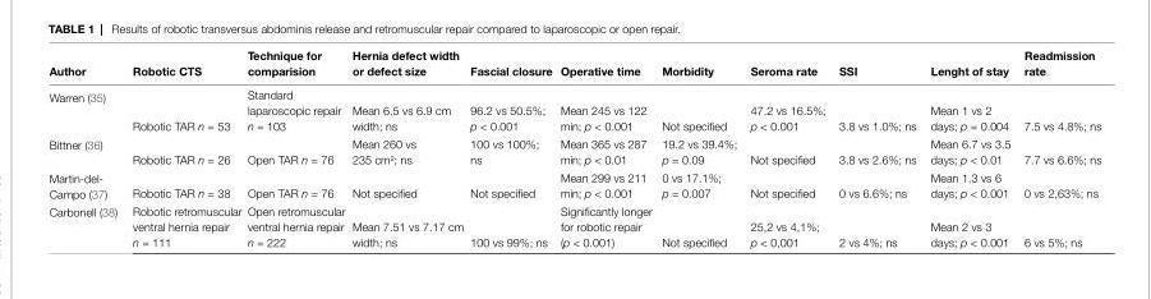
<table><thead><tr><td>Author</td><td>Robotic CTS</td><td>Technique for comparision</td><td>Hernia defect width or defect size</td><td>fascial closure</td><td>operative time</td><td>morbidity</td><td>Seroma rate</td><td>SSi</td><td>Lenght of stay</td><td>Readmission rate</td></tr></thead><tbody><tr><td>Warren (35)</td><td>Robotic TAR n = 53</td><td>Standard laparoscopic repair n = 103</td><td>Mean 6.5 vs 6.9 cm width; ns</td><td>96.2 vs 50.5%; p &lt; 0.001</td><td>Mean 245 vs 122 min; p &lt; 0.001</td><td>Not specified</td><td>47.2 vs 16.5%; p &lt; 0.001</td><td>3.8 vs 1.0%; ns</td><td>Mean 1 vs 2 days; p = 0.004</td><td>7.5 vs 4.8%; ns</td></tr><tr><td>Bittner (36)</td><td>Robotic TAR n = 26</td><td>Open TAR n = 76</td><td>Mean 260 vs 235 cm²; ns</td><td>100 vs 100%; ns</td><td>Mean 365 vs 287 min; p &lt; 0.01</td><td>19.2 vs 39.4%; p = 0.09</td><td>Not specified</td><td>3.8 vs 2.6%; ns</td><td>Mean 6.7 vs 3.5 days; p &lt; 0.01</td><td>7.7 vs 6.6%; ns</td></tr><tr><td>Martin-del- Campo (37)</td><td>Robotic TAR n = 38</td><td>Open TAR n = 76</td><td>Not specified</td><td>Not specified</td><td>Mean 299 vs 211 min; p &lt; 0.001</td><td>0 vs 17.1%; p = 0.007</td><td>Not specified</td><td>0 vs 6.6%; ns</td><td>Mean 1.3 vs 6 days; p &lt; 0.001</td><td>0 vs 2,63%; ns</td></tr><tr><td>Carbonell (38)</td><td>Robotic retromuscular ventral hernia repair n = 111</td><td>Open retromuscular ventral hernia repair n = 222</td><td>Mean 7.51 vs 7.17 cm width; ns</td><td>100 vs 99%; ns</td><td>Significantly longer for robotic repair (p &lt; 0.001)</td><td>Not specified</td><td>25,2 vs 4,1%; p &lt; 0,001</td><td>2 vs 4%; ns</td><td>Mean 2 vs 3 days; p &lt; 0.001</td><td>6 vs 5%; ns</td></tr></tbody></table>